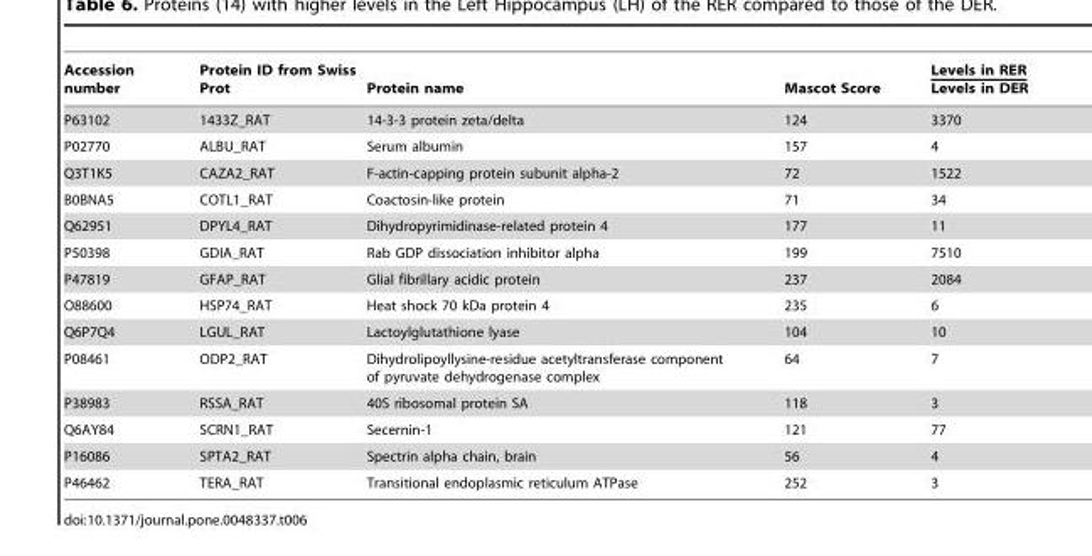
<table><thead><tr><td>Accession number</td><td>Protein ID from Swiss Prot</td><td>Protein name</td><td>Mascot Score</td><td>Levels in RER Levels in DER</td></tr></thead><tbody><tr><td>P63102</td><td>1433Z_RAT</td><td>14-3-3 protein zeta/delta</td><td>124</td><td>3370</td></tr><tr><td>P02770</td><td>ALBU_RAT</td><td>Serum albumin</td><td>157</td><td>4</td></tr><tr><td>Q3T1K5</td><td>CAZA2_RAT</td><td>F-actin-capping protein subunit alpha-2</td><td>72</td><td>1522</td></tr><tr><td>B0BNA5</td><td>COTL1_RAT</td><td>Coactosin-like protein</td><td>71</td><td>34</td></tr><tr><td>Q62951</td><td>DPYL4_RAT</td><td>Dihydropyrimidinase-related protein 4</td><td>177</td><td>11</td></tr><tr><td>P50398</td><td>GDIA_RAT</td><td>Rab GDP dissociation inhibitor alpha</td><td>199</td><td>7510</td></tr><tr><td>P47819</td><td>GFAP_RAT</td><td>Glial fibrillary acidic protein</td><td>237</td><td>2084</td></tr><tr><td>O88600</td><td>HSP74_RAT</td><td>Heat shock 70 kDa protein 4</td><td>235</td><td>6</td></tr><tr><td>Q6P7Q4</td><td>LGUL_RAT</td><td>Lactoylglutathione lyase</td><td>104</td><td>10</td></tr><tr><td>P08461</td><td>ODP2_RAT</td><td>Dihydrolipoyllysine-residue acetyltransferase component of pyruvate dehydrogenase complex</td><td>64</td><td>7</td></tr><tr><td>P38983</td><td>RSSA_RAT</td><td>40S ribosomal protein SA</td><td>118</td><td>3</td></tr><tr><td>Q6AY84</td><td>SCRN1_RAT</td><td>Secernin-1</td><td>121</td><td>77</td></tr><tr><td>P16086</td><td>SPTA2_RAT</td><td>Spectrin alpha chain, brain</td><td>56</td><td>4</td></tr><tr><td>P46462</td><td>TERA_RAT</td><td>Transitional endoplasmic reticulum ATPase</td><td>252</td><td>3</td></tr></tbody></table>